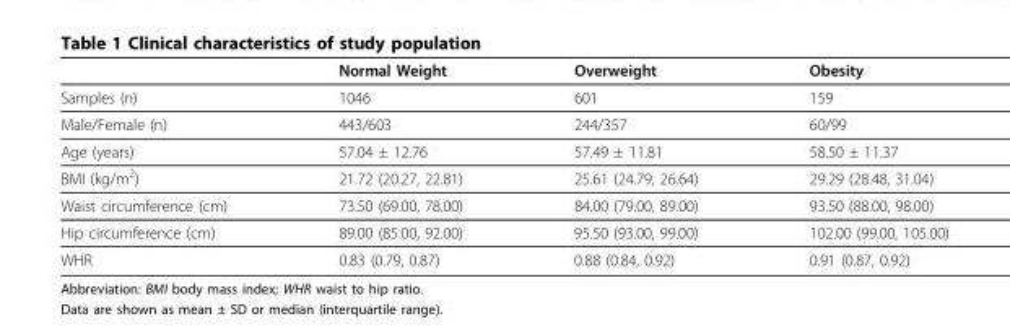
<table><thead><tr><td></td><td>Normal Weight</td><td>Overweight</td><td>Obesity</td></tr></thead><tbody><tr><td>Samples (n)</td><td>1046</td><td>601</td><td>159</td></tr><tr><td>Male/Female (n)</td><td>443/603</td><td>244/357</td><td>60/99</td></tr><tr><td>Age (years)</td><td>57.04 ± 12.76</td><td>57.49 ± 11.81</td><td>58.50 ± 11.37</td></tr><tr><td>BMI (kg/m<sup>2</sup>)</td><td>21.72 (20.27, 22.81)</td><td>25.61 (24.79, 26.64)</td><td>29.29 (28.48, 31.04)</td></tr><tr><td>Waist circumference (cm)</td><td>73.50 (69.00, 78.00)</td><td>84.00 (79.00, 89.00)</td><td>93.50 (88.00, 98.00)</td></tr><tr><td>Hip circumference (cm)</td><td>89.00 (85.00, 92.00)</td><td>95.50 (93.00, 99.00)</td><td>102.00 (99.00, 105.00)</td></tr><tr><td>WHR</td><td>0.83 (0.79, 0.87)</td><td>0.88 (0.84, 0.92)</td><td>0.91 (0.87, 0.92)</td></tr></tbody></table>